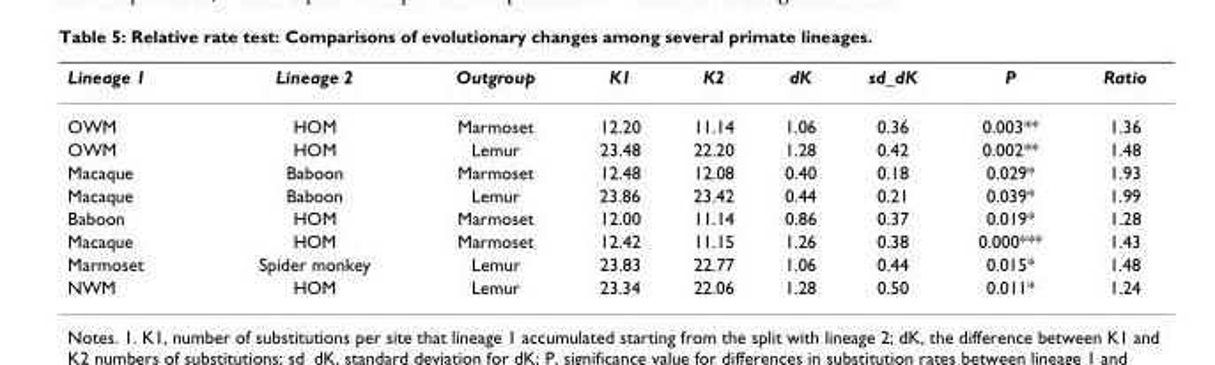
<table><thead><tr><td>Lineage 1</td><td>Lineage 2</td><td>Outgroup</td><td>K1</td><td>K2</td><td>dK</td><td>sd_dK</td><td>P</td><td>Ratio</td></tr></thead><tbody><tr><td>OWM</td><td>HOM</td><td>Marmoset</td><td>12.20</td><td>11.14</td><td>1.06</td><td>0.36</td><td>0.003**</td><td>1.36</td></tr><tr><td>OWM</td><td>HOM</td><td>Lemur</td><td>23.48</td><td>22.20</td><td>1.28</td><td>0.42</td><td>0.002**</td><td>1.48</td></tr><tr><td>Macaque</td><td>Baboon</td><td>Marmoset</td><td>12.48</td><td>12.08</td><td>0.40</td><td>0.18</td><td>0.029*</td><td>1.93</td></tr><tr><td>Macaque</td><td>Baboon</td><td>Lemur</td><td>23.86</td><td>23.42</td><td>0.44</td><td>0.21</td><td>0.039*</td><td>1.99</td></tr><tr><td>Baboon</td><td>HOM</td><td>Marmoset</td><td>12.00</td><td>11.14</td><td>0.86</td><td>0.37</td><td>0.019*</td><td>1.28</td></tr><tr><td>Macaque</td><td>HOM</td><td>Marmoset</td><td>12.42</td><td>11.15</td><td>1.26</td><td>0.38</td><td>0.000***</td><td>1.43</td></tr><tr><td>Marmoset</td><td>Spider monkey</td><td>Lemur</td><td>23.83</td><td>22.77</td><td>1.06</td><td>0.44</td><td>0.015*</td><td>1.48</td></tr><tr><td>NWM</td><td>HOM</td><td>Lemur</td><td>23.34</td><td>22.06</td><td>1.28</td><td>0.50</td><td>0.011*</td><td>1.24</td></tr></tbody></table>